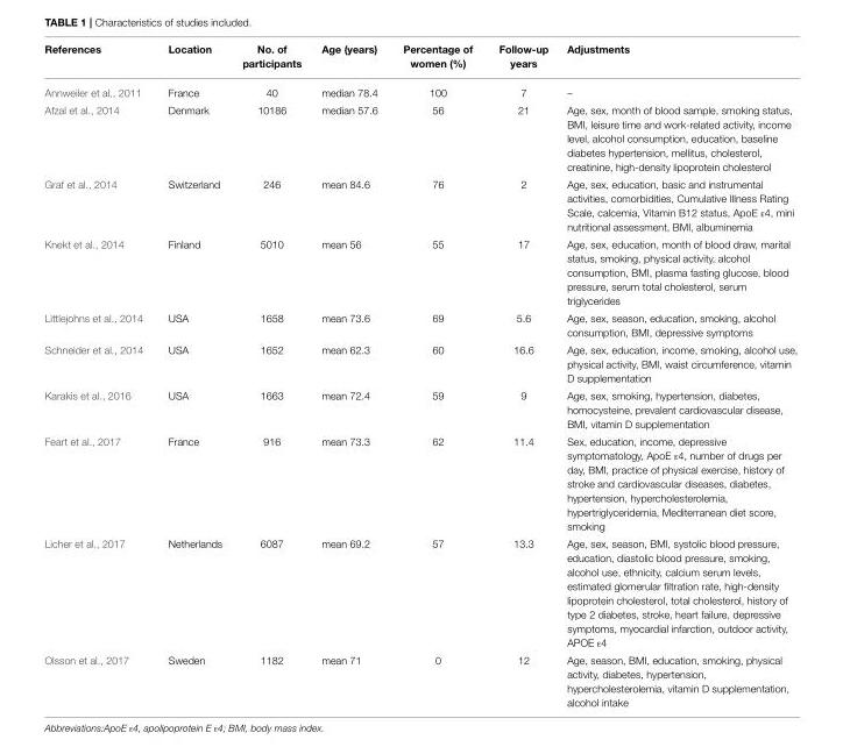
<table><thead><tr><td>References</td><td>Location</td><td>No. of participants</td><td>Age (years)</td><td>Percentage of women (%)</td><td>Follow-up years</td><td>Adjustments</td></tr></thead><tbody><tr><td>Annweiler et al., 2011</td><td>France</td><td>40</td><td>median 78.4</td><td>100</td><td>7</td><td>–</td></tr><tr><td>Afzal et al., 2014</td><td>Denmark</td><td>10186</td><td>median 57.6</td><td>56</td><td>21</td><td>Age, sex, month of blood sample, smoking status, BMI, leisure time and work-related activity, income level, alcohol consumption, education, baseline diabetes hypertension, mellitus, cholesterol, creatinine, high-density lipoprotein cholesterol</td></tr><tr><td>Graf et al., 2014</td><td>Switzerland</td><td>246</td><td>mean 84.6</td><td>76</td><td>2</td><td>Age, sex, education, basic and instrumental activities, comorbidities, Cumulative Illness Rating Scale, calcemia, Vitamin B12 status, ApoE ε4, mini nutritional assessment, BMI, albuminemia</td></tr><tr><td>Knekt et al., 2014</td><td>Finland</td><td>5010</td><td>mean 56</td><td>55</td><td>17</td><td>Age, sex, education, month of blood draw, marital status, smoking, physical activity, alcohol consumption, BMI, plasma fasting glucose, blood pressure, serum total cholesterol, serum triglycerides</td></tr><tr><td>Littlejohns et al., 2014</td><td>USA</td><td>1658</td><td>mean 73.6</td><td>69</td><td>5.6</td><td>Age, sex, season, education, smoking, alcohol consumption, BMI, depressive symptoms</td></tr><tr><td>Schneider et al., 2014</td><td>USA</td><td>1652</td><td>mean 62.3</td><td>60</td><td>16.6</td><td>Age, sex, education, income, smoking, alcohol use, physical activity, BMI, waist circumference, vitamin D supplementation</td></tr><tr><td>Karakis et al., 2016</td><td>USA</td><td>1663</td><td>mean 72.4</td><td>59</td><td>9</td><td>Age, sex, smoking, hypertension, diabetes, homocysteine, prevalent cardiovascular disease, BMI, vitamin D supplementation</td></tr><tr><td>Feart et al., 2017</td><td>France</td><td>916</td><td>mean 73.3</td><td>62</td><td>11.4</td><td>Sex, education, income, depressive symptomatology, ApoE ε4, number of drugs per day, BMI, practice of physical exercise, history of stroke and cardiovascular diseases, diabetes, hypertension, hypercholesterolemia, hypertriglyceridemia, Mediterranean diet score, smoking</td></tr><tr><td>Licher et al., 2017</td><td>Netherlands</td><td>6087</td><td>mean 69.2</td><td>57</td><td>13.3</td><td>Age, sex, season, BMI, systolic blood pressure, education, diastolic blood pressure, smoking, alcohol use, ethnicity, calcium serum levels, estimated glomerular filtration rate, high-density lipoprotein cholesterol, total cholesterol, history of type 2 diabetes, stroke, heart failure, depressive symptoms, myocardial infarction, outdoor activity, APOE ε4</td></tr><tr><td>Olsson et al., 2017</td><td>Sweden</td><td>1182</td><td>mean 71</td><td>0</td><td>12</td><td>Age, season, BMI, education, smoking, physical activity, diabetes, hypertension, hypercholesterolemia, vitamin D supplementation, alcohol intake</td></tr></tbody></table>